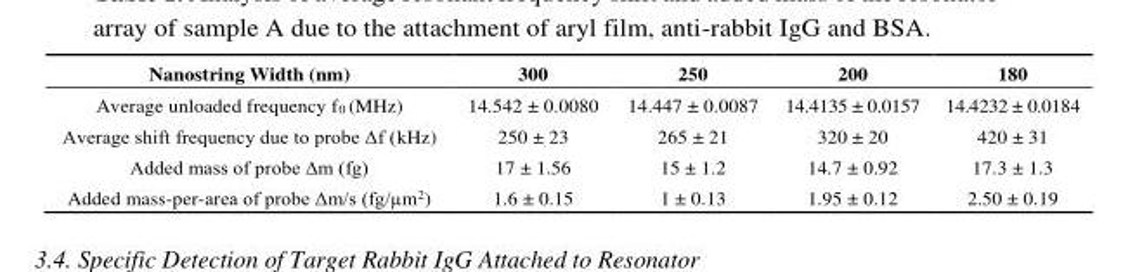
<table><thead><tr><td>Nanostring Width (nm)</td><td>300</td><td>250</td><td>200</td><td>180</td></tr></thead><tbody><tr><td>Average unloaded frequency f<sub>0</sub> (MHz)</td><td>14.542 ± 0.0080</td><td>14.447 ± 0.0087</td><td>14.4135 ± 0.0157</td><td>14.4232 ± 0.0184</td></tr><tr><td>Average shift frequency due to probe Δf (kHz)</td><td>250 ± 23</td><td>265 ± 21</td><td>320 ± 20</td><td>420 ± 31</td></tr><tr><td>Added mass of probe Δm (fg)</td><td>17 ± 1.56</td><td>15 ± 1.2</td><td>14.7 ± 0.92</td><td>17.3 ± 1.3</td></tr><tr><td>Added mass-per-area of probe Δm/s (fg/µm<sup>2</sup>)</td><td>1.6 ± 0.15</td><td>1 ± 0.13</td><td>1.95 ± 0.12</td><td>2.50 ± 0.19</td></tr></tbody></table>